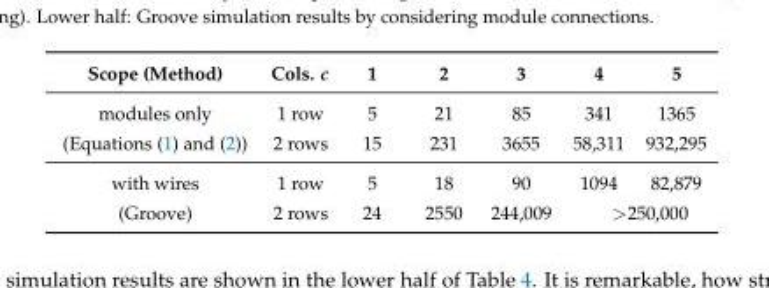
<table><thead><tr><td>Scope (Method)</td><td>Cols. c</td><td>1</td><td>2</td><td>3</td><td>4</td><td>5</td></tr></thead><tbody><tr><td>modules only</td><td>1 row</td><td>5</td><td>21</td><td>85</td><td>341</td><td>1365</td></tr><tr><td>(Equations (1) and (2))</td><td>2 rows</td><td>15</td><td>231</td><td>3655</td><td>58,311</td><td>932,295</td></tr><tr><td>with wires</td><td>1 row</td><td>5</td><td>18</td><td>90</td><td>1094</td><td>82,879</td></tr><tr><td>(Groove)</td><td>2 rows</td><td>24</td><td>2550</td><td>244,009</td><td colspan="2">&gt;250,000</td></tr></tbody></table>